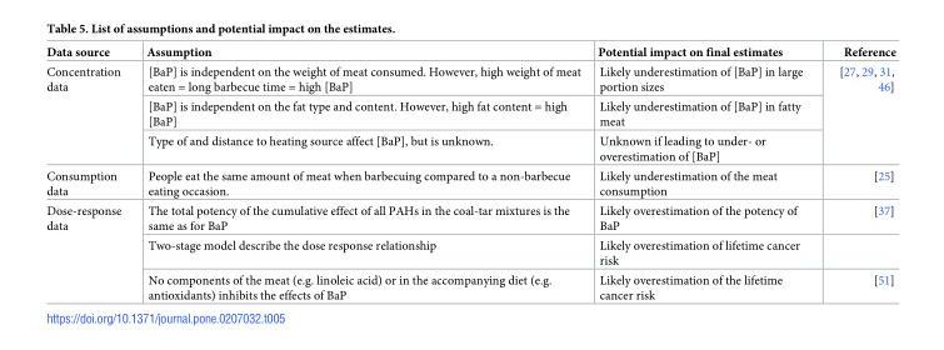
<table><thead><tr><td>Data source</td><td>Assumption</td><td>Potential impact on final estimates</td><td>Reference</td></tr></thead><tbody><tr><td rowspan="3">Concentration data</td><td>[BaP] is independent on the weight of meat consumed. However, high weight of meat eaten = long barbecue time = high [BaP]</td><td>Likely underestimation of [BaP] in large portion sizes</td><td rowspan="3">[27, 29, 31, 46]</td></tr><tr><td>[BaP] is independent on the fat type and content. However, high fat content = high [BaP]</td><td>Likely underestimation of [BaP] in fatty meat</td></tr><tr><td>Type of and distance to heating source affect [BaP], but is unknown.</td><td>Unknown if leading to under- or overestimation of [BaP]</td></tr><tr><td>Consumption data</td><td>People eat the same amount of meat when barbecuing compared to a non-barbecue eating occasion.</td><td>Likely underestimation of the meat consumption</td><td>[25]</td></tr><tr><td rowspan="3">Dose-response data</td><td>The total potency of the cumulative effect of all PAHs in the coal-tar mixtures is the same as for BaP</td><td>Likely overestimation of the potency of BaP</td><td>[37]</td></tr><tr><td>Two-stage model describe the dose response relationship</td><td>Likely overestimation of lifetime cancer risk</td><td></td></tr><tr><td>No components of the meat (e.g. linoleic acid) or in the accompanying diet (e.g. antioxidants) inhibits the effects of BaP</td><td>Likely overestimation of the lifetime cancer risk</td><td>[51]</td></tr></tbody></table>